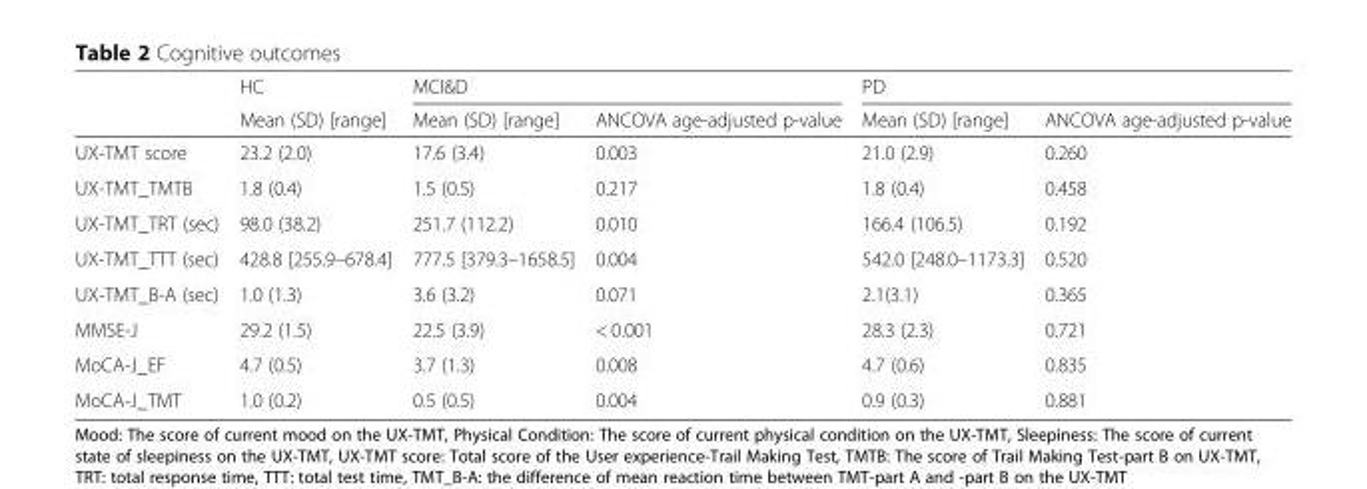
<table><thead><tr><td rowspan="2"></td><td rowspan="2">HC Mean (SD) [range]</td><td colspan="2">MCI&amp;D</td><td colspan="2">PD</td></tr><tr><td>Mean (SD) [range]</td><td>ANCOVA age-adjusted p-value</td><td>Mean (SD) [range]</td><td>ANCOVA age-adjusted p-value</td></tr></thead><tbody><tr><td>UX-TMT score</td><td>23.2 (2.0)</td><td>17.6 (3.4)</td><td>0.003</td><td>21.0 (2.9)</td><td>0.260</td></tr><tr><td>UX-TMT_TMTB</td><td>1.8 (0.4)</td><td>1.5 (0.5)</td><td>0.217</td><td>1.8 (0.4)</td><td>0.458</td></tr><tr><td>UX-TMT_TRT (sec)</td><td>98.0 (38.2)</td><td>251.7 (112.2)</td><td>0.010</td><td>166.4 (106.5)</td><td>0.192</td></tr><tr><td>UX-TMT_TTT (sec)</td><td>428.8 [255.9–678.4]</td><td>777.5 [379.3–1658.5]</td><td>0.004</td><td>542.0 [248.0–1173.3]</td><td>0.520</td></tr><tr><td>UX-TMT_B-A (sec)</td><td>1.0 (1.3)</td><td>3.6 (3.2)</td><td>0.071</td><td>2.1(3.1)</td><td>0.365</td></tr><tr><td>MMSE-J</td><td>29.2 (1.5)</td><td>22.5 (3.9)</td><td>&lt; 0.001</td><td>28.3 (2.3)</td><td>0.721</td></tr><tr><td>MoCA-J_EF</td><td>4.7 (0.5)</td><td>3.7 (1.3)</td><td>0.008</td><td>4.7 (0.6)</td><td>0.835</td></tr><tr><td>MoCA-J_TMT</td><td>1.0 (0.2)</td><td>0.5 (0.5)</td><td>0.004</td><td>0.9 (0.3)</td><td>0.881</td></tr></tbody></table>